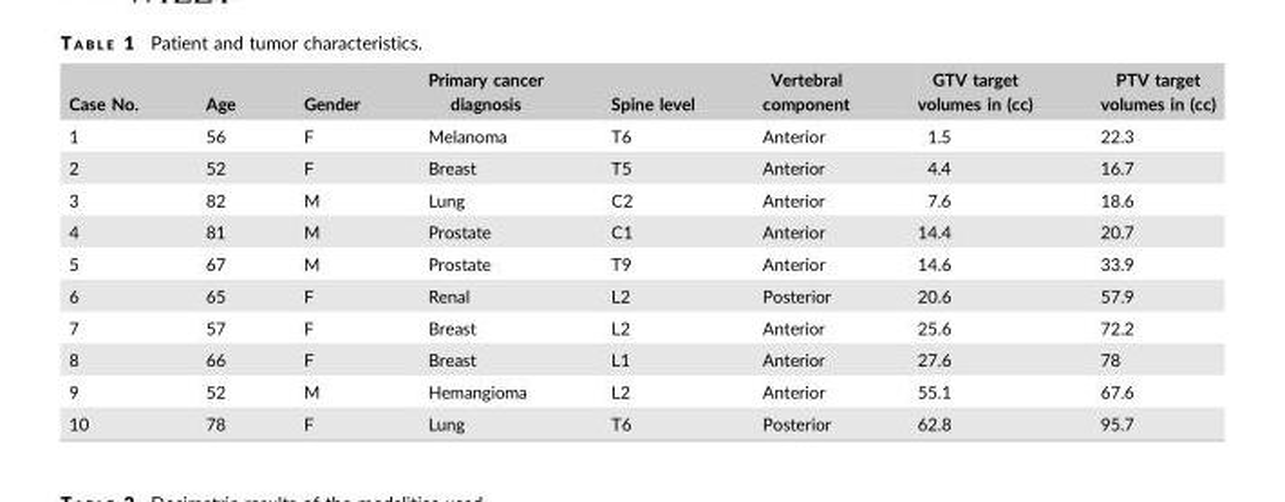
<table><thead><tr><td>Case No.</td><td>Age</td><td>Gender</td><td>Primary cancer diagnosis</td><td>Spine level</td><td>Vertebral component</td><td>GTV target volumes in (cc)</td><td>PTV target volumes in (cc)</td></tr></thead><tbody><tr><td>1</td><td>56</td><td>F</td><td>Melanoma</td><td>T6</td><td>Anterior</td><td>1.5</td><td>22.3</td></tr><tr><td>2</td><td>52</td><td>F</td><td>Breast</td><td>T5</td><td>Anterior</td><td>4.4</td><td>16.7</td></tr><tr><td>3</td><td>82</td><td>M</td><td>Lung</td><td>C2</td><td>Anterior</td><td>7.6</td><td>18.6</td></tr><tr><td>4</td><td>81</td><td>M</td><td>Prostate</td><td>C1</td><td>Anterior</td><td>14.4</td><td>20.7</td></tr><tr><td>5</td><td>67</td><td>M</td><td>Prostate</td><td>T9</td><td>Anterior</td><td>14.6</td><td>33.9</td></tr><tr><td>6</td><td>65</td><td>F</td><td>Renal</td><td>L2</td><td>Posterior</td><td>20.6</td><td>57.9</td></tr><tr><td>7</td><td>57</td><td>F</td><td>Breast</td><td>L2</td><td>Anterior</td><td>25.6</td><td>72.2</td></tr><tr><td>8</td><td>66</td><td>F</td><td>Breast</td><td>L1</td><td>Anterior</td><td>27.6</td><td>78</td></tr><tr><td>9</td><td>52</td><td>M</td><td>Hemangioma</td><td>L2</td><td>Anterior</td><td>55.1</td><td>67.6</td></tr><tr><td>10</td><td>78</td><td>F</td><td>Lung</td><td>T6</td><td>Posterior</td><td>62.8</td><td>95.7</td></tr></tbody></table>